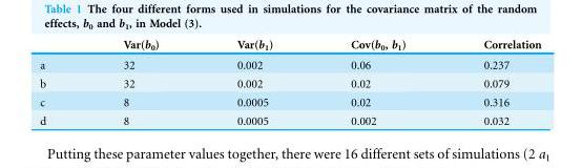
<table><thead><tr><td></td><td>Var(b<sub>0</sub>)</td><td>Var(b<sub>1</sub>)</td><td>Cov(b<sub>0</sub>, b<sub>1</sub>)</td><td>Correlation</td></tr></thead><tbody><tr><td>a</td><td>32</td><td>0.002</td><td>0.06</td><td>0.237</td></tr><tr><td>b</td><td>32</td><td>0.002</td><td>0.02</td><td>0.079</td></tr><tr><td>c</td><td>8</td><td>0.0005</td><td>0.02</td><td>0.316</td></tr><tr><td>d</td><td>8</td><td>0.0005</td><td>0.002</td><td>0.032</td></tr></tbody></table>